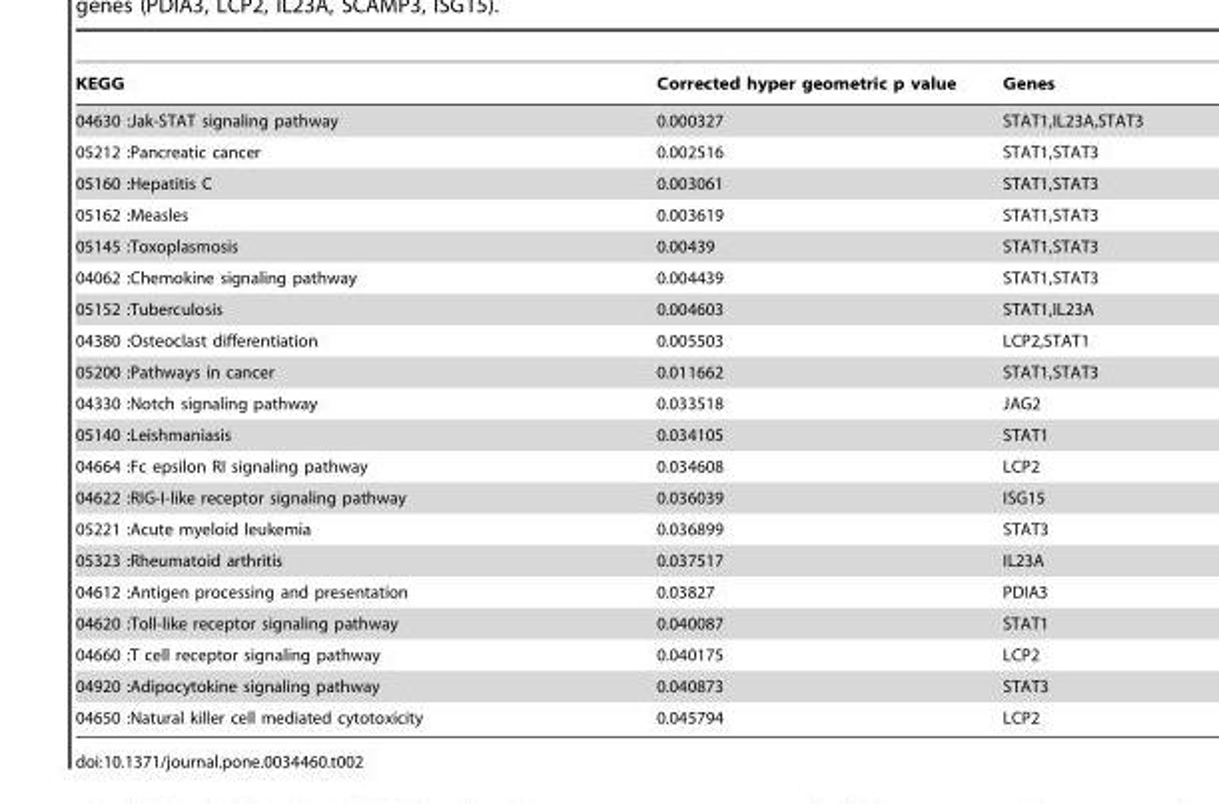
<table><thead><tr><td>KEGG</td><td>Corrected hyper geometric p value</td><td>Genes</td></tr></thead><tbody><tr><td>04630 :Jak-STAT signaling pathway</td><td>0.000327</td><td>STAT1,IL23A,STAT3</td></tr><tr><td>05212 :Pancreatic cancer</td><td>0.002516</td><td>STAT1,STAT3</td></tr><tr><td>05160 :Hepatitis C</td><td>0.003061</td><td>STAT1,STAT3</td></tr><tr><td>05162 :Measles</td><td>0.003619</td><td>STAT1,STAT3</td></tr><tr><td>05145 :Toxoplasmosis</td><td>0.00439</td><td>STAT1,STAT3</td></tr><tr><td>04062 :Chemokine signaling pathway</td><td>0.004439</td><td>STAT1,STAT3</td></tr><tr><td>05152 :Tuberculosis</td><td>0.004603</td><td>STAT1,IL23A</td></tr><tr><td>04380 :Osteoclast differentiation</td><td>0.005503</td><td>LCP2,STAT1</td></tr><tr><td>05200 :Pathways in cancer</td><td>0.011662</td><td>STAT1,STAT3</td></tr><tr><td>04330 :Notch signaling pathway</td><td>0.033518</td><td>JAG2</td></tr><tr><td>05140 :Leishmaniasis</td><td>0.034105</td><td>STAT1</td></tr><tr><td>04664 :Fc epsilon RI signaling pathway</td><td>0.034608</td><td>LCP2</td></tr><tr><td>04622 :RIG-I-like receptor signaling pathway</td><td>0.036039</td><td>ISG15</td></tr><tr><td>05221 :Acute myeloid leukemia</td><td>0.036899</td><td>STAT3</td></tr><tr><td>05323 :Rheumatoid arthritis</td><td>0.037517</td><td>IL23A</td></tr><tr><td>04612 :Antigen processing and presentation</td><td>0.03827</td><td>PDIA3</td></tr><tr><td>04620 :Toll-like receptor signaling pathway</td><td>0.040087</td><td>STAT1</td></tr><tr><td>04660 :T cell receptor signaling pathway</td><td>0.040175</td><td>LCP2</td></tr><tr><td>04920 :Adipocytokine signaling pathway</td><td>0.040873</td><td>STAT3</td></tr><tr><td>04650 :Natural killer cell mediated cytotoxicity</td><td>0.045794</td><td>LCP2</td></tr></tbody></table>